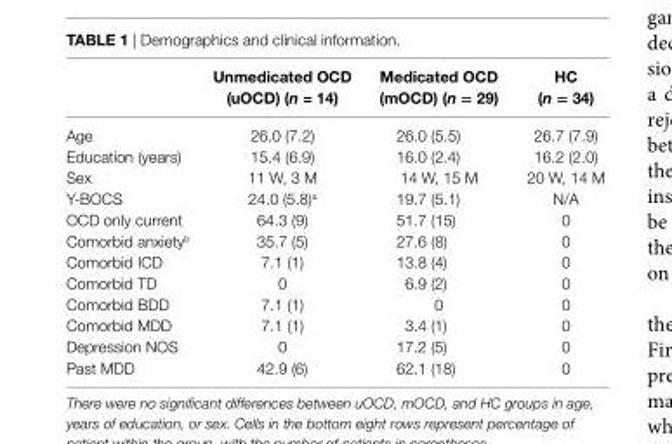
<table><thead><tr><td></td><td>Unmedicated OcD (uOcD) (n = 14)</td><td>Medicated OcD (mOcD) (n = 29)</td><td>hc (n = 34)</td></tr></thead><tbody><tr><td>Age</td><td>26.0 (7.2)</td><td>26.0 (5.5)</td><td>26.7 (7.9)</td></tr><tr><td>Education (years)</td><td>15.4 (6.9)</td><td>16.0 (2.4)</td><td>16.2 (2.0)</td></tr><tr><td>Sex</td><td>11 W, 3 M</td><td>14 W, 15 M</td><td>20 W, 14 M</td></tr><tr><td>Y-BOCS</td><td>24.0 (5.8)<sup>a</sup></td><td>19.7 (5.1)</td><td>N/A</td></tr><tr><td>OCD only current</td><td>64.3 (9)</td><td>51.7 (15)</td><td>0</td></tr><tr><td>Comorbid anxiety<sup>b</sup></td><td>35.7 (5)</td><td>27.6 (8)</td><td>0</td></tr><tr><td>Comorbid ICD</td><td>7.1 (1)</td><td>13.8 (4)</td><td>0</td></tr><tr><td>Comorbid TD</td><td>0</td><td>6.9 (2)</td><td>0</td></tr><tr><td>Comorbid BDD</td><td>7.1 (1)</td><td>0</td><td>0</td></tr><tr><td>Comorbid MDD</td><td>7.1 (1)</td><td>3.4 (1)</td><td>0</td></tr><tr><td>Depression NOS</td><td>0</td><td>17.2 (5)</td><td>0</td></tr><tr><td>Past MDD</td><td>42.9 (6)</td><td>62.1 (18)</td><td>0</td></tr></tbody></table>